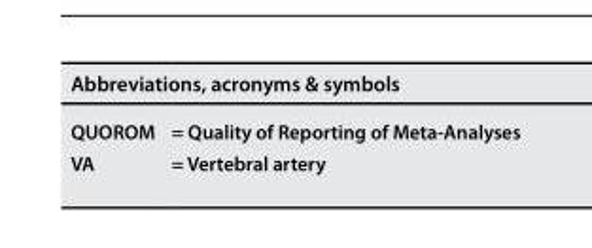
<table><thead><tr><td colspan="2">Abbreviations, acronyms &amp; symbols</td></tr><tr><td>QUOROM</td><td>= Quality of Reporting of Meta-Analyses</td></tr></thead><tbody><tr><td>VA</td><td>= Vertebral artery</td></tr></tbody></table>